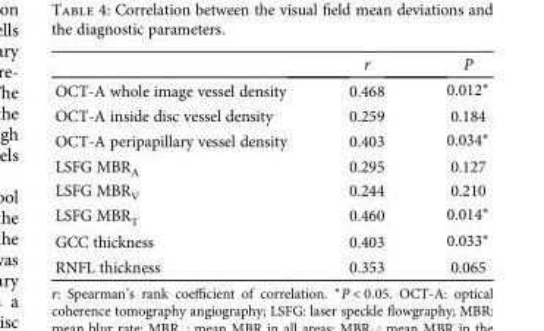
<table><thead><tr><td></td><td>r</td><td>P</td></tr></thead><tbody><tr><td>OCT-A whole image vessel density</td><td>0.468</td><td>0.012∗</td></tr><tr><td>OCT-A inside disc vessel density</td><td>0.259</td><td>0.184</td></tr><tr><td>OCT-A peripapillary vessel density</td><td>0.403</td><td>0.034∗</td></tr><tr><td>LSFG MBR<sub>A</sub></td><td>0.295</td><td>0.127</td></tr><tr><td>LSFG MBR<sub>V</sub></td><td>0.244</td><td>0.210</td></tr><tr><td>LSFG MBR<sub>T</sub></td><td>0.460</td><td>0.014∗</td></tr><tr><td>GCC thickness</td><td>0.403</td><td>0.033∗</td></tr><tr><td>RNFL thickness</td><td>0.353</td><td>0.065</td></tr></tbody></table>